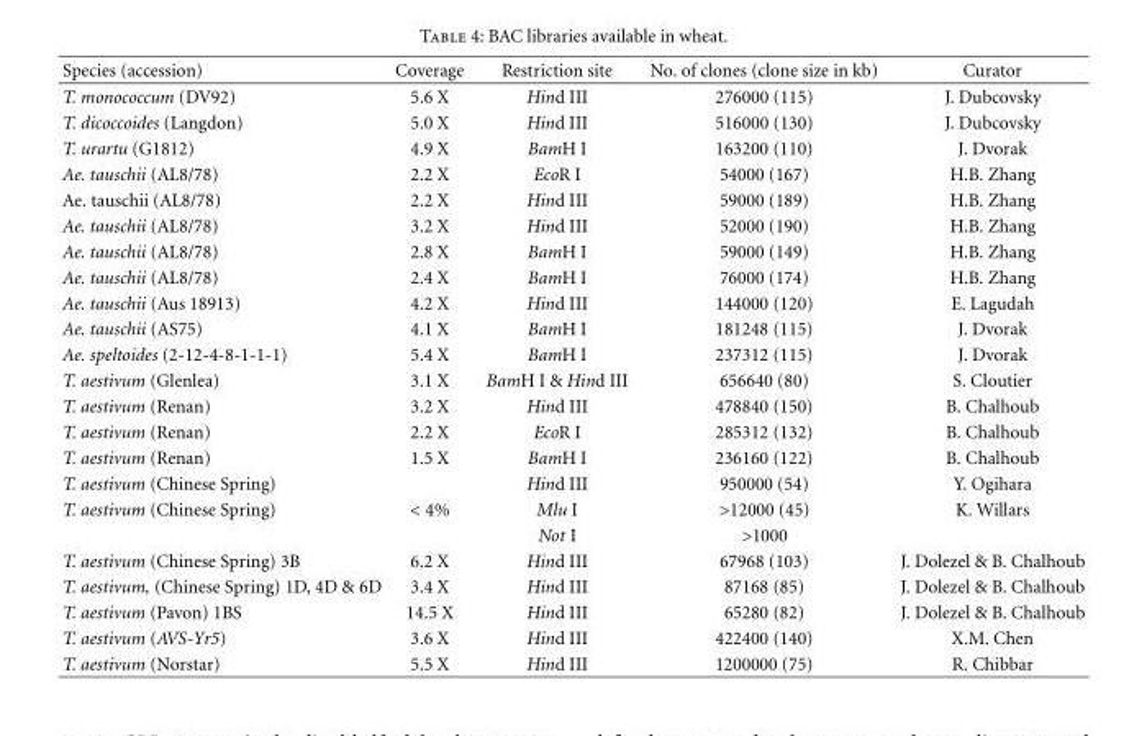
<table><thead><tr><td>Species (accession)</td><td>Coverage</td><td>Restriction site</td><td>No. of clones (clone size in kb)</td><td>Curator</td></tr></thead><tbody><tr><td>T. monococcum (DV92)</td><td>5.6 X</td><td>Hind III</td><td>276000 (115)</td><td>J. Dubcovsky</td></tr><tr><td>T. dicoccoides (Langdon)</td><td>5.0 X</td><td>Hind III</td><td>516000 (130)</td><td>J. Dubcovsky</td></tr><tr><td>T. urartu (G1812)</td><td>4.9 X</td><td>BamH I</td><td>163200 (110)</td><td>J. Dvorak</td></tr><tr><td>Ae. tauschii (AL8/78)</td><td>2.2 X</td><td>EcoR I</td><td>54000 (167)</td><td>H.B. Zhang</td></tr><tr><td>Ae. tauschii (AL8/78)</td><td>2.2 X</td><td>Hind III</td><td>59000 (189)</td><td>H.B. Zhang</td></tr><tr><td>Ae. tauschii (AL8/78)</td><td>3.2 X</td><td>Hind III</td><td>52000 (190)</td><td>H.B. Zhang</td></tr><tr><td>Ae. tauschii (AL8/78)</td><td>2.8 X</td><td>BamH I</td><td>59000 (149)</td><td>H.B. Zhang</td></tr><tr><td>Ae. tauschii (AL8/78)</td><td>2.4 X</td><td>BamH I</td><td>76000 (174)</td><td>H.B. Zhang</td></tr><tr><td>Ae. tauschii (Aus 18913)</td><td>4.2 X</td><td>Hind III</td><td>144000 (120)</td><td>E. Lagudah</td></tr><tr><td>Ae. tauschii (AS75)</td><td>4.1 X</td><td>BamH I</td><td>181248 (115)</td><td>J. Dvorak</td></tr><tr><td>Ae. speltoides (2-12-4-8-1-1-1)</td><td>5.4 X</td><td>BamH I</td><td>237312 (115)</td><td>J. Dvorak</td></tr><tr><td>T. aestivum (Glenlea)</td><td>3.1 X</td><td>BamH I &amp; Hind III</td><td>656640 (80)</td><td>S. Cloutier</td></tr><tr><td>T. aestivum (Renan)</td><td>3.2 X</td><td>Hind III</td><td>478840 (150)</td><td>B. Chalhoub</td></tr><tr><td>T. aestivum (Renan)</td><td>2.2 X</td><td>EcoR I</td><td>285312 (132)</td><td>B. Chalhoub</td></tr><tr><td>T. aestivum (Renan)</td><td>1.5 X</td><td>BamH I</td><td>236160 (122)</td><td>B. Chalhoub</td></tr><tr><td>T. aestivum (Chinese Spring)</td><td></td><td>Hind III</td><td>950000 (54)</td><td>Y. Ogihara</td></tr><tr><td rowspan="2">T. aestivum (Chinese Spring)</td><td>&lt; 4%</td><td>Mlu I</td><td>&gt;12000 (45)</td><td>K. Willars</td></tr><tr><td></td><td>Not I</td><td>&gt;1000</td><td></td></tr><tr><td>T. aestivum (Chinese Spring) 3B</td><td>6.2 X</td><td>Hind III</td><td>67968 (103)</td><td>J. Dolezel &amp; B. Chalhoub</td></tr><tr><td>T. aestivum, (Chinese Spring) 1D, 4D &amp; 6D</td><td>3.4 X</td><td>Hind III</td><td>87168 (85)</td><td>J. Dolezel &amp; B. Chalhoub</td></tr><tr><td>T. aestivum (Pavon) 1BS</td><td>14.5 X</td><td>Hind III</td><td>65280 (82)</td><td>J. Dolezel &amp; B. Chalhoub</td></tr><tr><td>T. aestivum (AVS-Yr5)</td><td>3.6 X</td><td>Hind III</td><td>422400 (140)</td><td>X.M. Chen</td></tr><tr><td>T. aestivum (Norstar)</td><td>5.5 X</td><td>Hind III</td><td>1200000 (75)</td><td>R. Chibbar</td></tr></tbody></table>